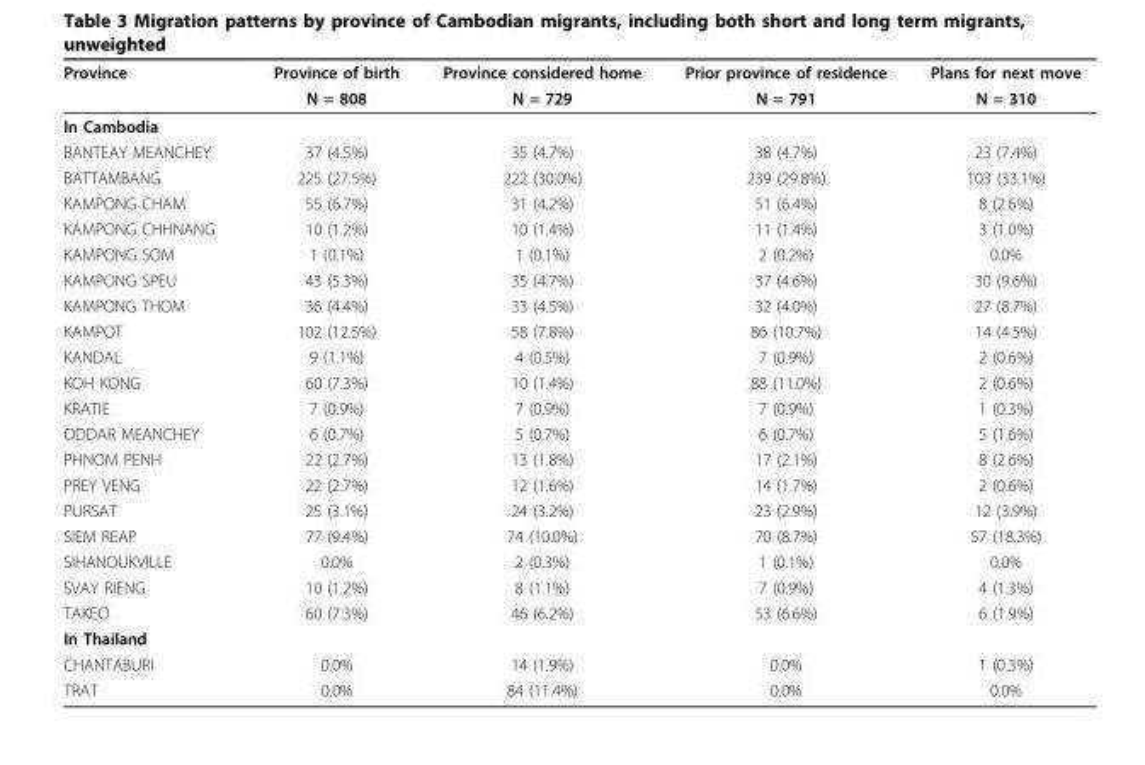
<table><thead><tr><td rowspan="2">Province</td><td rowspan="2">Province of birth N = 808</td><td rowspan="2">Province considered home N = 729</td><td rowspan="2">Prior province of residence N = 791</td><td rowspan="2">Plans for next move N = 310</td></tr><tr></tr></thead><tbody><tr><td colspan="5">In Cambodia</td></tr><tr><td>BANTEAY MEANCHEY</td><td>37 (4.5%)</td><td>35 (4.7%)</td><td>38 (4.7%)</td><td>23 (7.4%)</td></tr><tr><td>BATTAMBANG</td><td>225 (27.5%)</td><td>222 (30.0%)</td><td>239 (29.8%)</td><td>103 (33.1%)</td></tr><tr><td>KAMPONG CHAM</td><td>55 (6.7%)</td><td>31 (4.2%)</td><td>51 (6.4%)</td><td>8 (2.6%)</td></tr><tr><td>KAMPONG CHHNANG</td><td>10 (1.2%)</td><td>10 (1.4%)</td><td>11 (1.4%)</td><td>3 (1.0%)</td></tr><tr><td>KAMPONG SOM</td><td>1 (0.1%)</td><td>1 (0.1%)</td><td>2 (0.2%)</td><td>0.0%</td></tr><tr><td>KAMPONG SPEU</td><td>43 (5.3%)</td><td>35 (4.7%)</td><td>37 (4.6%)</td><td>30 (9.6%)</td></tr><tr><td>KAMPONG THOM</td><td>36 (4.4%)</td><td>33 (4.5%)</td><td>32 (4.0%)</td><td>27 (8.7%)</td></tr><tr><td>KAMPOT</td><td>102 (12.5%)</td><td>58 (7.8%)</td><td>86 (10.7%)</td><td>14 (4.5%)</td></tr><tr><td>KANDAL</td><td>9 (1.1%)</td><td>4 (0.5%)</td><td>7 (0.9%)</td><td>2 (0.6%)</td></tr><tr><td>KOH KONG</td><td>60 (7.3%)</td><td>10 (1.4%)</td><td>88 (11.0%)</td><td>2 (0.6%)</td></tr><tr><td>KRATIE</td><td>7 (0.9%)</td><td>7 (0.9%)</td><td>7 (0.9%)</td><td>1 (0.3%)</td></tr><tr><td>ODDAR MEANCHEY</td><td>6 (0.7%)</td><td>5 (0.7%)</td><td>6 (0.7%)</td><td>5 (1.6%)</td></tr><tr><td>PHNOM PENH</td><td>22 (2.7%)</td><td>13 (1.8%)</td><td>17 (2.1%)</td><td>8 (2.6%)</td></tr><tr><td>PREY VENG</td><td>22 (2.7%)</td><td>12 (1.6%)</td><td>14 (1.7%)</td><td>2 (0.6%)</td></tr><tr><td>PURSAT</td><td>25 (3.1%)</td><td>24 (3.2%)</td><td>23 (2.9%)</td><td>12 (3.9%)</td></tr><tr><td>SIEM REAP</td><td>77 (9.4%)</td><td>74 (10.0%)</td><td>70 (8.7%)</td><td>57 (18.3%)</td></tr><tr><td>SIHANOUKVILLE</td><td>0.0%</td><td>2 (0.3%)</td><td>1 (0.1%)</td><td>0.0%</td></tr><tr><td>SVAY RIENG</td><td>10 (1.2%)</td><td>8 (1.1%)</td><td>7 (0.9%)</td><td>4 (1.3%)</td></tr><tr><td>TAKEO</td><td>60 (7.3%)</td><td>46 (6.2%)</td><td>53 (6.6%)</td><td>6 (1.9%)</td></tr><tr><td colspan="5">In Thailand</td></tr><tr><td>CHANTABURI</td><td>0.0%</td><td>14 (1.9%)</td><td>0.0%</td><td>1 (0.3%)</td></tr><tr><td>TRAT</td><td>0.0%</td><td>84 (11.4%)</td><td>0.0%</td><td>0.0%</td></tr></tbody></table>